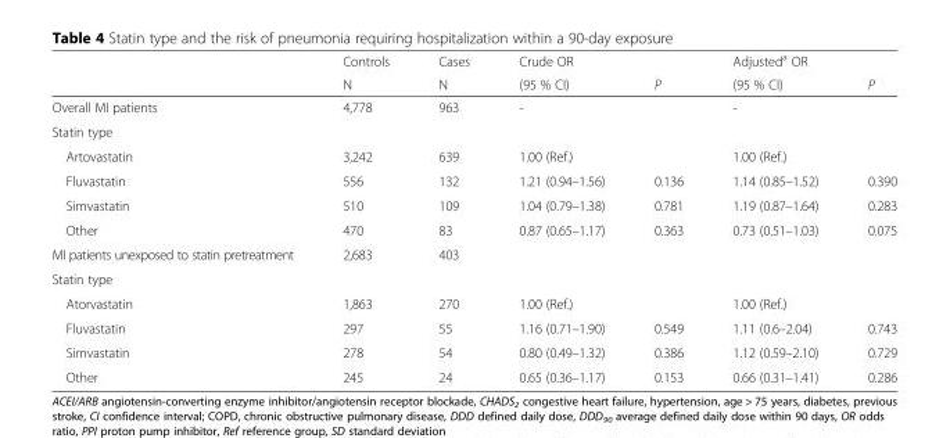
<table><thead><tr><td rowspan="2"></td><td rowspan="2">Controls N</td><td rowspan="2">Cases N</td><td rowspan="2">Crude OR (95 % CI)</td><td rowspan="2">P</td><td rowspan="2">Adjusted<sup>a</sup> OR (95 % CI)</td><td rowspan="2">P</td></tr><tr></tr></thead><tbody><tr><td>Overall MI patients</td><td>4,778</td><td>963</td><td>-</td><td></td><td>-</td><td></td></tr><tr><td colspan="7">Statin type</td></tr><tr><td>Artovastatin</td><td>3,242</td><td>639</td><td>1.00 (Ref.)</td><td></td><td>1.00 (Ref.)</td><td></td></tr><tr><td>Fluvastatin</td><td>556</td><td>132</td><td>1.21 (0.94–1.56)</td><td>0.136</td><td>1.14 (0.85–1.52)</td><td>0.390</td></tr><tr><td>Simvastatin</td><td>510</td><td>109</td><td>1.04 (0.79–1.38)</td><td>0.781</td><td>1.19 (0.87–1.64)</td><td>0.283</td></tr><tr><td>Other</td><td>470</td><td>83</td><td>0.87 (0.65–1.17)</td><td>0.363</td><td>0.73 (0.51–1.03)</td><td>0.075</td></tr><tr><td>MI patients unexposed to statin pretreatment</td><td>2,683</td><td>403</td><td></td><td></td><td></td><td></td></tr><tr><td colspan="7">Statin type</td></tr><tr><td>Atorvastatin</td><td>1,863</td><td>270</td><td>1.00 (Ref.)</td><td></td><td>1.00 (Ref.)</td><td></td></tr><tr><td>Fluvastatin</td><td>297</td><td>55</td><td>1.16 (0.71–1.90)</td><td>0.549</td><td>1.11 (0.6–2.04)</td><td>0.743</td></tr><tr><td>Simvastatin</td><td>278</td><td>54</td><td>0.80 (0.49–1.32)</td><td>0.386</td><td>1.12 (0.59–2.10)</td><td>0.729</td></tr><tr><td>Other</td><td>245</td><td>24</td><td>0.65 (0.36–1.17)</td><td>0.153</td><td>0.66 (0.31–1.41)</td><td>0.286</td></tr></tbody></table>